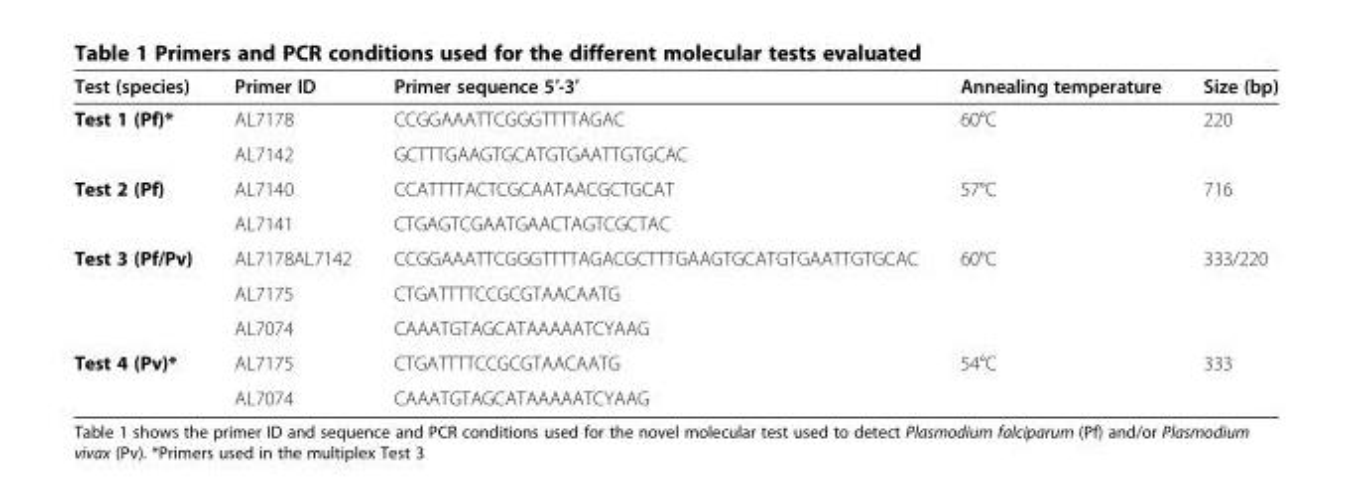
<table><thead><tr><td>Test (species)</td><td>Primer ID</td><td>Primer sequence 5′-3′</td><td>Annealing temperature</td><td>Size (bp)</td></tr></thead><tbody><tr><td rowspan="2">Test 1 (Pf)*</td><td>AL7178</td><td>CCGGAAATTCGGGTTTTAGAC</td><td>60°C</td><td>220</td></tr><tr><td>AL7142</td><td>GCTTTGAAGTGCATGTGAATTGTGCAC</td><td></td><td></td></tr><tr><td rowspan="2">Test 2 (Pf)</td><td>AL7140</td><td>CCATTTTACTCGCAATAACGCTGCAT</td><td>57°C</td><td>716</td></tr><tr><td>AL7141</td><td>CTGAGTCGAATGAACTAGTCGCTAC</td><td></td><td></td></tr><tr><td rowspan="3">Test 3 (Pf/Pv)</td><td>AL7178AL7142</td><td>CCGGAAATTCGGGTTTTAGACGCTTTGAAGTGCATGTGAATTGTGCAC</td><td>60°C</td><td>333/220</td></tr><tr><td>AL7175</td><td>CTGATTTTCCGCGTAACAATG</td><td></td><td></td></tr><tr><td>AL7074</td><td>CAAATGTAGCATAAAAATCYAAG</td><td></td><td></td></tr><tr><td rowspan="2">Test 4 (Pv)*</td><td>AL7175</td><td>CTGATTTTCCGCGTAACAATG</td><td>54°C</td><td>333</td></tr><tr><td>AL7074</td><td>CAAATGTAGCATAAAAATCYAAG</td><td></td><td></td></tr></tbody></table>